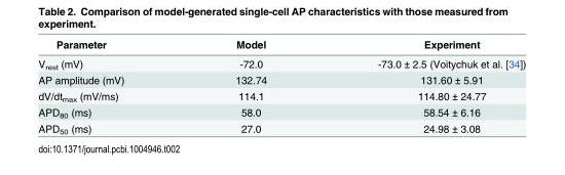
<table><thead><tr><td>Parameter</td><td>Model</td><td>Experiment</td></tr></thead><tbody><tr><td>V<sub>rest</sub> (mV)</td><td>-72.0</td><td>-73.0 ± 2.5 (Voitychuk et al. [34])</td></tr><tr><td>AP amplitude (mV)</td><td>132.74</td><td>131.60 ± 5.91</td></tr><tr><td>dV/dt<sub>max</sub> (mV/ms)</td><td>114.1</td><td>114.80 ± 24.77</td></tr><tr><td>APD<sub>80</sub> (ms)</td><td>58.0</td><td>58.54 ± 6.16</td></tr><tr><td>APD<sub>50</sub> (ms)</td><td>27.0</td><td>24.98 ± 3.08</td></tr></tbody></table>